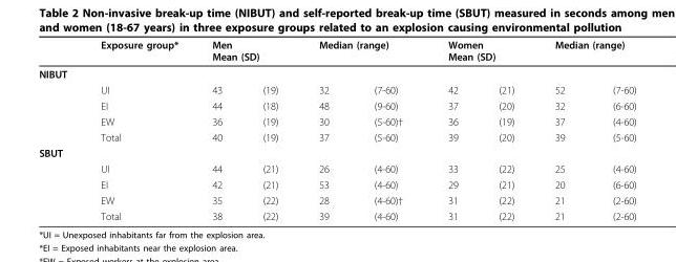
<table><thead><tr><td rowspan="2">NIBUT</td><td rowspan="2">Exposure group*</td><td colspan="2">Men Mean (SD)</td><td colspan="2">Median (range)</td><td colspan="2">Women Mean (SD)</td><td colspan="2">Median (range)</td></tr><tr><td></td><td></td><td></td><td></td><td></td><td></td><td></td><td></td></tr></thead><tbody><tr><td></td><td>UI</td><td>43</td><td>(19)</td><td>32</td><td>(7-60)</td><td>42</td><td>(21)</td><td>52</td><td>(7-60)</td></tr><tr><td></td><td>EI</td><td>44</td><td>(18)</td><td>48</td><td>(9-60)</td><td>37</td><td>(20)</td><td>32</td><td>(6-60)</td></tr><tr><td></td><td>EW</td><td>36</td><td>(19)</td><td>30</td><td>(5-60)†</td><td>36</td><td>(19)</td><td>37</td><td>(4-60)</td></tr><tr><td></td><td>Total</td><td>40</td><td>(19)</td><td>37</td><td>(5-60)</td><td>39</td><td>(20)</td><td>39</td><td>(5-60)</td></tr><tr><td colspan="10">SBUT</td></tr><tr><td></td><td>UI</td><td>44</td><td>(21)</td><td>26</td><td>(4-60)</td><td>33</td><td>(22)</td><td>25</td><td>(4-60)</td></tr><tr><td></td><td>EI</td><td>42</td><td>(21)</td><td>53</td><td>(4-60)</td><td>29</td><td>(21)</td><td>20</td><td>(6-60)</td></tr><tr><td></td><td>EW</td><td>35</td><td>(22)</td><td>28</td><td>(4-60)†</td><td>31</td><td>(22)</td><td>21</td><td>(2-60)</td></tr><tr><td></td><td>Total</td><td>38</td><td>(22)</td><td>39</td><td>(4-60)</td><td>31</td><td>(22)</td><td>21</td><td>(2-60)</td></tr></tbody></table>